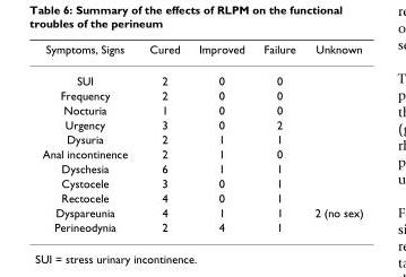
<table><thead><tr><td>Symptoms, Signs</td><td>Cured</td><td>Improved</td><td>Failure</td><td>Unknown</td></tr></thead><tbody><tr><td>SUI</td><td>2</td><td>0</td><td>0</td><td></td></tr><tr><td>Frequency</td><td>2</td><td>0</td><td>0</td><td></td></tr><tr><td>Nocturia</td><td>1</td><td>0</td><td>0</td><td></td></tr><tr><td>Urgency</td><td>3</td><td>0</td><td>2</td><td></td></tr><tr><td>Dysuria</td><td>2</td><td>1</td><td>1</td><td></td></tr><tr><td>Anal incontinence</td><td>2</td><td>1</td><td>0</td><td></td></tr><tr><td>Dyschesia</td><td>6</td><td>1</td><td>1</td><td></td></tr><tr><td>Cystocele</td><td>3</td><td>0</td><td>1</td><td></td></tr><tr><td>Rectocele</td><td>4</td><td>0</td><td>1</td><td></td></tr><tr><td>Dyspareunia</td><td>4</td><td>1</td><td>1</td><td>2 (no sex)</td></tr><tr><td>Perineodynia</td><td>2</td><td>4</td><td>1</td><td></td></tr></tbody></table>